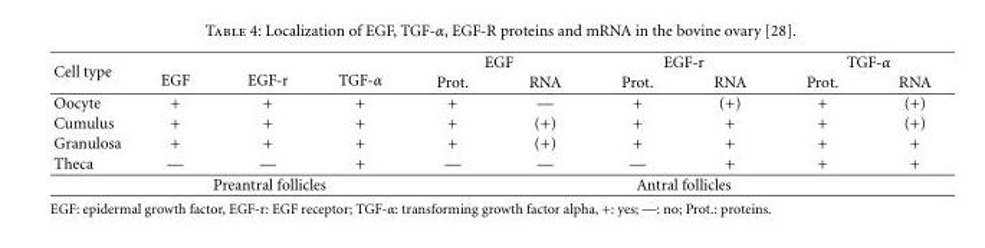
<table><thead><tr><td rowspan="2">Cell type</td><td rowspan="2">EGF</td><td rowspan="2">EGF-r</td><td rowspan="2">TGF-α</td><td colspan="2">EGF</td><td colspan="2">EGF-r</td><td colspan="2">TGF-α</td></tr><tr><td>Prot.</td><td>RNA</td><td>Prot.</td><td>RNA</td><td>Prot.</td><td>RNA</td></tr></thead><tbody><tr><td>Oocyte</td><td>+</td><td>+</td><td>+</td><td>+</td><td>—</td><td>+</td><td>(+)</td><td>+</td><td>(+)</td></tr><tr><td>Cumulus</td><td>+</td><td>+</td><td>+</td><td>+</td><td>(+)</td><td>+</td><td>+</td><td>+</td><td>(+)</td></tr><tr><td>Granulosa</td><td>+</td><td>+</td><td>+</td><td>+</td><td>(+)</td><td>+</td><td>+</td><td>+</td><td>+</td></tr><tr><td rowspan="2">Theca</td><td>—</td><td>—</td><td>+</td><td>—</td><td>—</td><td>—</td><td>+</td><td>+</td><td>+</td></tr><tr><td colspan="3">Preantral follicles</td><td colspan="6">Antral follicles</td></tr></tbody></table>